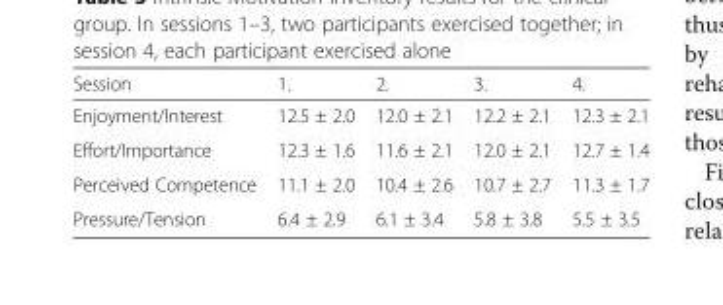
<table><thead><tr><td>Session</td><td>1.</td><td>2.</td><td>3.</td><td>4.</td></tr></thead><tbody><tr><td>Enjoyment/Interest</td><td>12.5 ± 2.0</td><td>12.0 ± 2.1</td><td>12.2 ± 2.1</td><td>12.3 ± 2.1</td></tr><tr><td>Effort/Importance</td><td>12.3 ± 1.6</td><td>11.6 ± 2.1</td><td>12.0 ± 2.1</td><td>12.7 ± 1.4</td></tr><tr><td>Perceived Competence</td><td>11.1 ± 2.0</td><td>10.4 ± 2.6</td><td>10.7 ± 2.7</td><td>11.3 ± 1.7</td></tr><tr><td>Pressure/Tension</td><td>6.4 ± 2.9</td><td>6.1 ± 3.4</td><td>5.8 ± 3.8</td><td>5.5 ± 3.5</td></tr></tbody></table>